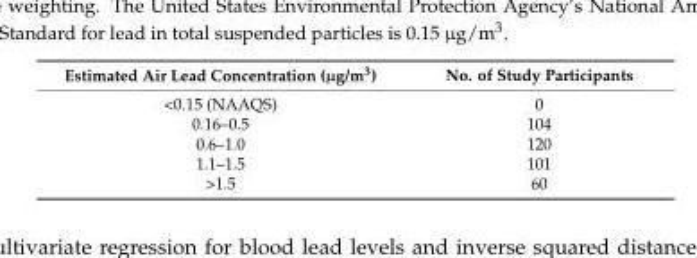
<table><thead><tr><td>Estimated Air Lead Concentration (µg/m<sup>3</sup>)</td><td>No. of Study Participants</td></tr></thead><tbody><tr><td>&lt;0.15 (NAAQS)</td><td>0</td></tr><tr><td>0.16–0.5</td><td>104</td></tr><tr><td>0.6–1.0</td><td>120</td></tr><tr><td>1.1–1.5</td><td>101</td></tr><tr><td>&gt;1.5</td><td>60</td></tr></tbody></table>